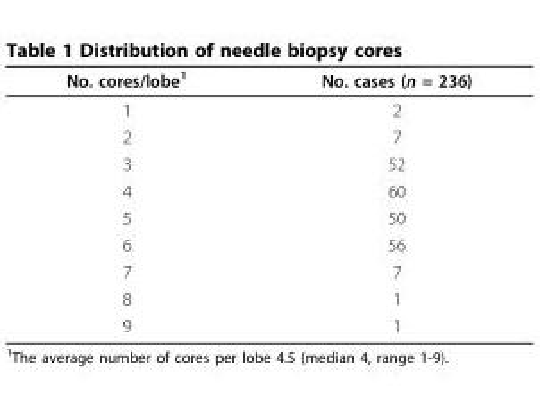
<table><thead><tr><td>No. cores/lobe<sup>1</sup></td><td>No. cases (n = 236)</td></tr></thead><tbody><tr><td>1</td><td>2</td></tr><tr><td>2</td><td>7</td></tr><tr><td>3</td><td>52</td></tr><tr><td>4</td><td>60</td></tr><tr><td>5</td><td>50</td></tr><tr><td>6</td><td>56</td></tr><tr><td>7</td><td>7</td></tr><tr><td>8</td><td>1</td></tr><tr><td>9</td><td>1</td></tr></tbody></table>